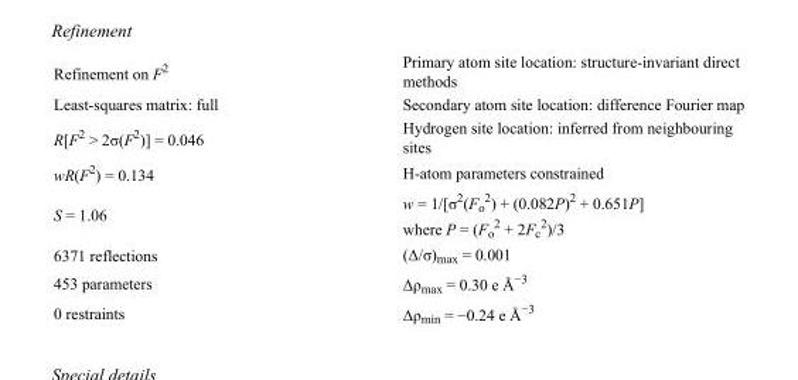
<table><tbody><tr><td>Refinement on F<sup>2</sup></td><td>Primary atom site location: structure-invariant direct methods</td></tr><tr><td>Least-squares matrix: full</td><td>Secondary atom site location: difference Fourier map</td></tr><tr><td>R[F<sup>2</sup> &gt; 2σ(F<sup>2</sup>)] = 0.046</td><td>Hydrogen site location: inferred from neighbouring sites</td></tr><tr><td>wR(F<sup>2</sup>) = 0.134</td><td>H-atom parameters constrained</td></tr><tr><td>S = 1.06</td><td>w = 1/[σ<sup>2</sup>(F<sub>o</sub> <sup>2</sup>) + (0.082P)<sup>2</sup> + 0.651P] where P = (F<sub>o</sub> <sup>2</sup> + 2F<sub>c</sub> <sup>2</sup>)/3</td></tr><tr><td>6371 reflections</td><td>(Δ/σ)<sub>max</sub> = 0.001</td></tr><tr><td>453 parameters</td><td>Δρ<sub>max</sub> = 0.30 e Å<sup>−3</sup></td></tr><tr><td>0 restraints</td><td>Δρ<sub>min</sub> = −0.24 e Å<sup>−3</sup></td></tr></tbody></table>